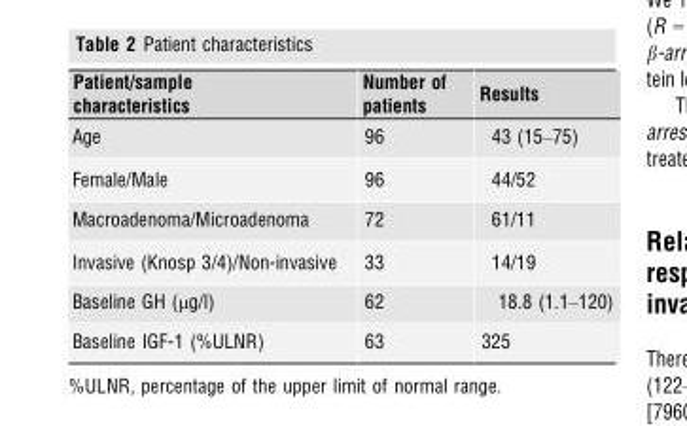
<table><thead><tr><td>Patient/sample characteristics</td><td>Number of patients</td><td>Results</td></tr></thead><tbody><tr><td>Age</td><td>96</td><td>43 (15–75)</td></tr><tr><td>Female/Male</td><td>96</td><td>44/52</td></tr><tr><td>Macroadenoma/Microadenoma</td><td>72</td><td>61/11</td></tr><tr><td>Invasive (Knosp 3/4)/Non-invasive</td><td>33</td><td>14/19</td></tr><tr><td>Baseline GH (μg/l)</td><td>62</td><td>18.8 (1.1–120)</td></tr><tr><td>Baseline IGF-1 (%ULNR)</td><td>63</td><td>325</td></tr></tbody></table>